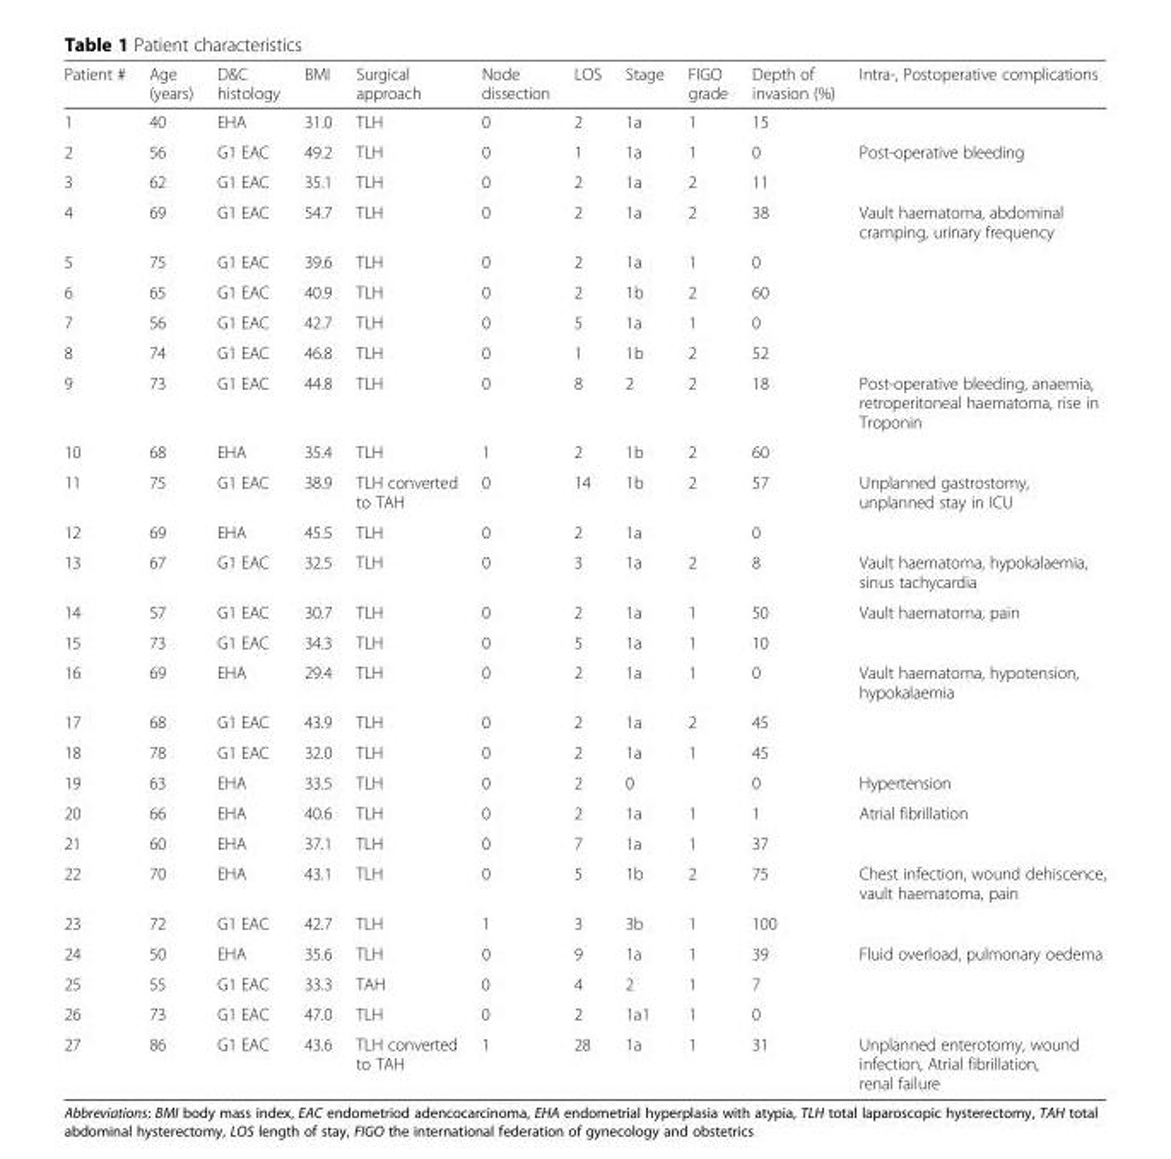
<table><thead><tr><td>Patient #</td><td>Age (years)</td><td>D&amp;C histology</td><td>BMI</td><td>Surgical approach</td><td>Node dissection</td><td>LOS</td><td>Stage</td><td>FIGO grade</td><td>Depth of invasion (%)</td><td>Intra-, Postoperative complications</td></tr></thead><tbody><tr><td>1</td><td>40</td><td>EHA</td><td>31.0</td><td>TLH</td><td>0</td><td>2</td><td>1a</td><td>1</td><td>15</td><td></td></tr><tr><td>2</td><td>56</td><td>G1 EAC</td><td>49.2</td><td>TLH</td><td>0</td><td>1</td><td>1a</td><td>1</td><td>0</td><td>Post-operative bleeding</td></tr><tr><td>3</td><td>62</td><td>G1 EAC</td><td>35.1</td><td>TLH</td><td>0</td><td>2</td><td>1a</td><td>2</td><td>11</td><td></td></tr><tr><td>4</td><td>69</td><td>G1 EAC</td><td>54.7</td><td>TLH</td><td>0</td><td>2</td><td>1a</td><td>2</td><td>38</td><td>Vault haematoma, abdominal cramping, urinary frequency</td></tr><tr><td>5</td><td>75</td><td>G1 EAC</td><td>39.6</td><td>TLH</td><td>0</td><td>2</td><td>1a</td><td>1</td><td>0</td><td></td></tr><tr><td>6</td><td>65</td><td>G1 EAC</td><td>40.9</td><td>TLH</td><td>0</td><td>2</td><td>1b</td><td>2</td><td>60</td><td></td></tr><tr><td>7</td><td>56</td><td>G1 EAC</td><td>42.7</td><td>TLH</td><td>0</td><td>5</td><td>1a</td><td>1</td><td>0</td><td></td></tr><tr><td>8</td><td>74</td><td>G1 EAC</td><td>46.8</td><td>TLH</td><td>0</td><td>1</td><td>1b</td><td>2</td><td>52</td><td></td></tr><tr><td>9</td><td>73</td><td>G1 EAC</td><td>44.8</td><td>TLH</td><td>0</td><td>8</td><td>2</td><td>2</td><td>18</td><td>Post-operative bleeding, anaemia, retroperitoneal haematoma, rise in Troponin</td></tr><tr><td>10</td><td>68</td><td>EHA</td><td>35.4</td><td>TLH</td><td>1</td><td>2</td><td>1b</td><td>2</td><td>60</td><td></td></tr><tr><td>11</td><td>75</td><td>G1 EAC</td><td>38.9</td><td>TLH converted to TAH</td><td>0</td><td>14</td><td>1b</td><td>2</td><td>57</td><td>Unplanned gastrostomy, unplanned stay in ICU</td></tr><tr><td>12</td><td>69</td><td>EHA</td><td>45.5</td><td>TLH</td><td>0</td><td>2</td><td>1a</td><td></td><td>0</td><td></td></tr><tr><td>13</td><td>67</td><td>G1 EAC</td><td>32.5</td><td>TLH</td><td>0</td><td>3</td><td>1a</td><td>2</td><td>8</td><td>Vault haematoma, hypokalaemia, sinus tachycardia</td></tr><tr><td>14</td><td>57</td><td>G1 EAC</td><td>30.7</td><td>TLH</td><td>0</td><td>2</td><td>1a</td><td>1</td><td>50</td><td>Vault haematoma, pain</td></tr><tr><td>15</td><td>73</td><td>G1 EAC</td><td>34.3</td><td>TLH</td><td>0</td><td>5</td><td>1a</td><td>1</td><td>10</td><td></td></tr><tr><td>16</td><td>69</td><td>EHA</td><td>29.4</td><td>TLH</td><td>0</td><td>2</td><td>1a</td><td>1</td><td>0</td><td>Vault haematoma, hypotension, hypokalaemia</td></tr><tr><td>17</td><td>68</td><td>G1 EAC</td><td>43.9</td><td>TLH</td><td>0</td><td>2</td><td>1a</td><td>2</td><td>45</td><td></td></tr><tr><td>18</td><td>78</td><td>G1 EAC</td><td>32.0</td><td>TLH</td><td>0</td><td>2</td><td>1a</td><td>1</td><td>45</td><td></td></tr><tr><td>19</td><td>63</td><td>EHA</td><td>33.5</td><td>TLH</td><td>0</td><td>2</td><td>0</td><td></td><td>0</td><td>Hypertension</td></tr><tr><td>20</td><td>66</td><td>EHA</td><td>40.6</td><td>TLH</td><td>0</td><td>2</td><td>1a</td><td>1</td><td>1</td><td>Atrial fibrillation</td></tr><tr><td>21</td><td>60</td><td>EHA</td><td>37.1</td><td>TLH</td><td>0</td><td>7</td><td>1a</td><td>1</td><td>37</td><td></td></tr><tr><td>22</td><td>70</td><td>EHA</td><td>43.1</td><td>TLH</td><td>0</td><td>5</td><td>1b</td><td>2</td><td>75</td><td>Chest infection, wound dehiscence, vault haematoma, pain</td></tr><tr><td>23</td><td>72</td><td>G1 EAC</td><td>42.7</td><td>TLH</td><td>1</td><td>3</td><td>3b</td><td>1</td><td>100</td><td></td></tr><tr><td>24</td><td>50</td><td>EHA</td><td>35.6</td><td>TLH</td><td>0</td><td>9</td><td>1a</td><td>1</td><td>39</td><td>Fluid overload, pulmonary oedema</td></tr><tr><td>25</td><td>55</td><td>G1 EAC</td><td>33.3</td><td>TAH</td><td>0</td><td>4</td><td>2</td><td>1</td><td>7</td><td></td></tr><tr><td>26</td><td>73</td><td>G1 EAC</td><td>47.0</td><td>TLH</td><td>0</td><td>2</td><td>1a1</td><td>1</td><td>0</td><td></td></tr><tr><td>27</td><td>86</td><td>G1 EAC</td><td>43.6</td><td>TLH converted to TAH</td><td>1</td><td>28</td><td>1a</td><td>1</td><td>31</td><td>Unplanned enterotomy, wound infection, Atrial fibrillation, renal failure</td></tr></tbody></table>